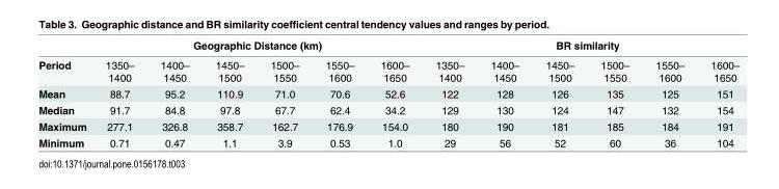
<table><thead><tr><td rowspan="2">Period</td><td colspan="6">Geographic Distance (km)</td><td colspan="6">BR similarity</td></tr><tr><td>1350– 1400</td><td>1400– 1450</td><td>1450– 1500</td><td>1500– 1550</td><td>1550– 1600</td><td>1600– 1650</td><td>1350– 1400</td><td>1400– 1450</td><td>1450– 1500</td><td>1500– 1550</td><td>1550– 1600</td><td>1600– 1650</td></tr></thead><tbody><tr><td>Mean</td><td>88.7</td><td>95.2</td><td>110.9</td><td>71.0</td><td>70.6</td><td>52.6</td><td>122</td><td>128</td><td>126</td><td>135</td><td>125</td><td>151</td></tr><tr><td>Median</td><td>91.7</td><td>84.8</td><td>97.8</td><td>67.7</td><td>62.4</td><td>34.2</td><td>129</td><td>130</td><td>124</td><td>147</td><td>132</td><td>154</td></tr><tr><td>Maximum</td><td>277.1</td><td>326.8</td><td>358.7</td><td>162.7</td><td>176.9</td><td>154.0</td><td>180</td><td>190</td><td>181</td><td>185</td><td>184</td><td>191</td></tr><tr><td>Minimum</td><td>0.71</td><td>0.47</td><td>1.1</td><td>3.9</td><td>0.53</td><td>1.0</td><td>29</td><td>56</td><td>52</td><td>60</td><td>36</td><td>104</td></tr></tbody></table>